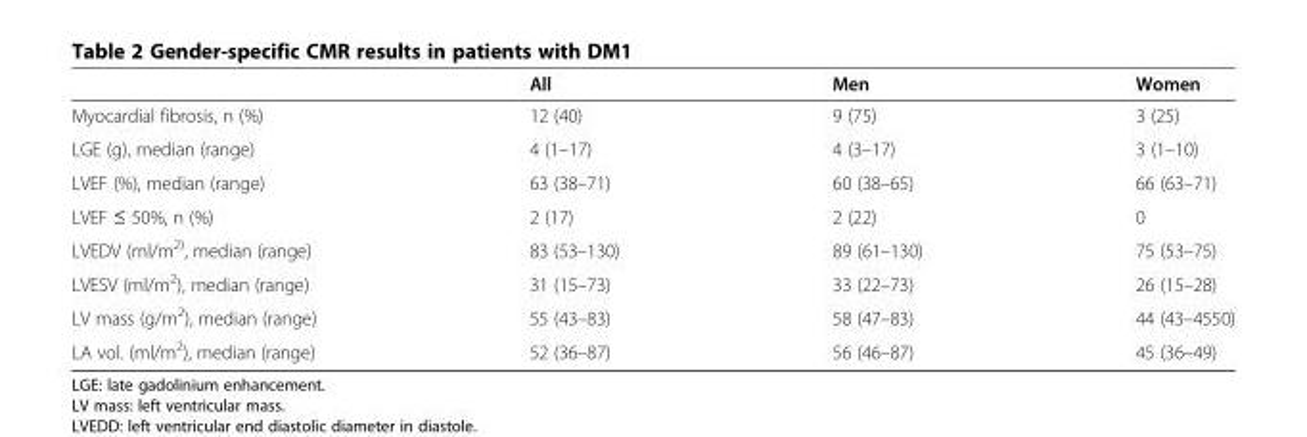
<table><thead><tr><td></td><td>All</td><td>Men</td><td>Women</td></tr></thead><tbody><tr><td>Myocardial fibrosis, n (%)</td><td>12 (40)</td><td>9 (75)</td><td>3 (25)</td></tr><tr><td>LGE (g), median (range)</td><td>4 (1–17)</td><td>4 (3–17)</td><td>3 (1–10)</td></tr><tr><td>LVEF (%), median (range)</td><td>63 (38–71)</td><td>60 (38–65)</td><td>66 (63–71)</td></tr><tr><td>LVEF ≤ 50%, n (%)</td><td>2 (17)</td><td>2 (22)</td><td>0</td></tr><tr><td>LVEDV (ml/m<sup>2)</sup>, median (range)</td><td>83 (53–130)</td><td>89 (61–130)</td><td>75 (53–75)</td></tr><tr><td>LVESV (ml/m<sup>2</sup>), median (range)</td><td>31 (15–73)</td><td>33 (22–73)</td><td>26 (15–28)</td></tr><tr><td>LV mass (g/m<sup>2</sup>), median (range)</td><td>55 (43–83)</td><td>58 (47–83)</td><td>44 (43–4550)</td></tr><tr><td>LA vol. (ml/m<sup>2</sup>), median (range)</td><td>52 (36–87)</td><td>56 (46–87)</td><td>45 (36–49)</td></tr></tbody></table>